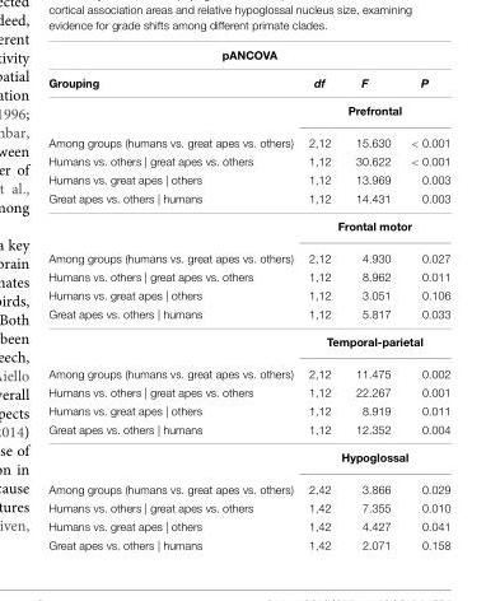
<table><thead><tr><td colspan="4">pANCOVA</td></tr><tr><td>Grouping</td><td>df</td><td>F</td><td>P</td></tr></thead><tbody><tr><td></td><td colspan="3">Prefrontal</td></tr><tr><td>Among groups (humans vs. great apes vs. others)</td><td>2,12</td><td>15.630</td><td>&lt; 0.001</td></tr><tr><td>Humans vs. others | great apes vs. others</td><td>1,12</td><td>30.622</td><td>&lt; 0.001</td></tr><tr><td>Humans vs. great apes | others</td><td>1,12</td><td>13.969</td><td>0.003</td></tr><tr><td rowspan="2">Great apes vs. others | humans</td><td>1,12</td><td>14.431</td><td>0.003</td></tr><tr><td colspan="3">Frontal motor</td></tr><tr><td>Among groups (humans vs. great apes vs. others)</td><td>2,12</td><td>4.930</td><td>0.027</td></tr><tr><td>Humans vs. others | great apes vs. others</td><td>1,12</td><td>8.962</td><td>0.011</td></tr><tr><td>Humans vs. great apes | others</td><td>1,12</td><td>3.051</td><td>0.106</td></tr><tr><td rowspan="2">Great apes vs. others | humans</td><td>1,12</td><td>5.817</td><td>0.033</td></tr><tr><td colspan="3">Temporal-parietal</td></tr><tr><td>Among groups (humans vs. great apes vs. others)</td><td>2,12</td><td>11.475</td><td>0.002</td></tr><tr><td>Humans vs. others | great apes vs. others</td><td>1,12</td><td>22.267</td><td>0.001</td></tr><tr><td>Humans vs. great apes | others</td><td>1,12</td><td>8.919</td><td>0.011</td></tr><tr><td rowspan="2">Great apes vs. others | humans</td><td>1,12</td><td>12.352</td><td>0.004</td></tr><tr><td colspan="3">Hypoglossal</td></tr><tr><td>Among groups (humans vs. great apes vs. others)</td><td>2,42</td><td>3.866</td><td>0.029</td></tr><tr><td>Humans vs. others | great apes vs. others</td><td>1,42</td><td>7.355</td><td>0.010</td></tr><tr><td>Humans vs. great apes | others</td><td>1,42</td><td>4.427</td><td>0.041</td></tr><tr><td>Great apes vs. others | humans</td><td>1,42</td><td>2.071</td><td>0.158</td></tr></tbody></table>